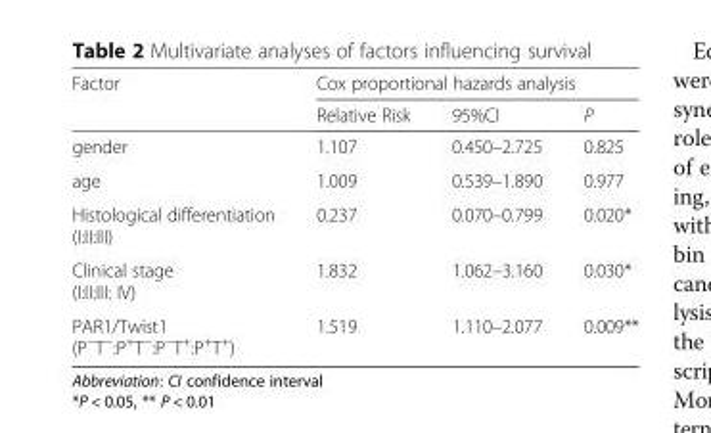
<table><thead><tr><td rowspan="2">Factor</td><td colspan="3">Cox proportional hazards analysis</td></tr><tr><td>Relative Risk</td><td>95%CI</td><td>P</td></tr></thead><tbody><tr><td>gender</td><td>1.107</td><td>0.450–2.725</td><td>0.825</td></tr><tr><td>age</td><td>1.009</td><td>0.539–1.890</td><td>0.977</td></tr><tr><td>Histological differentiation (I:II:III)</td><td>0.237</td><td>0.070–0.799</td><td>0.020*</td></tr><tr><td>Clinical stage (I:II:III: IV)</td><td>1.832</td><td>1.062–3.160</td><td>0.030*</td></tr><tr><td>PAR1/Twist1 (P<sup>−</sup>T<sup>−</sup>:P<sup>+</sup>T<sup>−</sup>:P<sup>−</sup>T<sup>+</sup>:P<sup>+</sup>T<sup>+</sup>)</td><td>1.519</td><td>1.110–2.077</td><td>0.009**</td></tr></tbody></table>